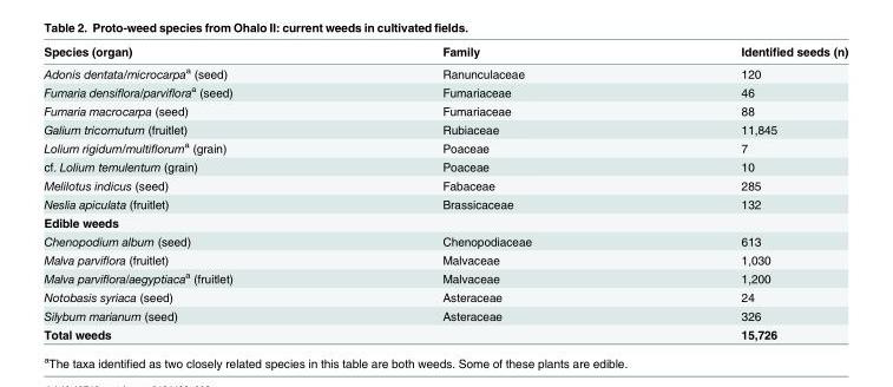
<table><thead><tr><td>Species (organ)</td><td>Family</td><td>Identified seeds (n)</td></tr></thead><tbody><tr><td>Adonis dentata/microcarpa<sup>a</sup> (seed)</td><td>Ranunculaceae</td><td>120</td></tr><tr><td>Fumaria densiflora/parviflora<sup>a</sup> (seed)</td><td>Fumariaceae</td><td>46</td></tr><tr><td>Fumaria macrocarpa (seed)</td><td>Fumariaceae</td><td>88</td></tr><tr><td>Galium tricornutum (fruitlet)</td><td>Rubiaceae</td><td>11,845</td></tr><tr><td>Lolium rigidum/multiflorum<sup>a</sup> (grain)</td><td>Poaceae</td><td>7</td></tr><tr><td>cf. Lolium temulentum (grain)</td><td>Poaceae</td><td>10</td></tr><tr><td>Melilotus indicus (seed)</td><td>Fabaceae</td><td>285</td></tr><tr><td>Neslia apiculata (fruitlet)</td><td>Brassicaceae</td><td>132</td></tr><tr><td colspan="3">Edible weeds</td></tr><tr><td>Chenopodium album (seed)</td><td>Chenopodiaceae</td><td>613</td></tr><tr><td>Malva parviflora (fruitlet)</td><td>Malvaceae</td><td>1,030</td></tr><tr><td>Malva parviflora/aegyptiaca<sup>a</sup> (fruitlet)</td><td>Malvaceae</td><td>1,200</td></tr><tr><td>Notobasis syriaca (seed)</td><td>Asteraceae</td><td>24</td></tr><tr><td>Silybum marianum (seed)</td><td>Asteraceae</td><td>326</td></tr><tr><td>Total weeds</td><td></td><td>15,726</td></tr></tbody></table>